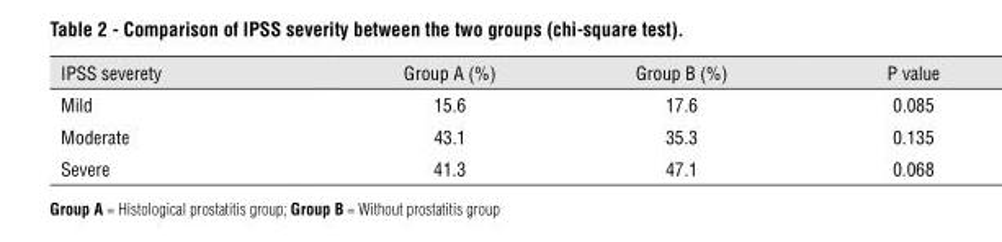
<table><thead><tr><td>IPSS severety</td><td>Group A (%)</td><td>Group B (%)</td><td>P value</td></tr></thead><tbody><tr><td>Mild</td><td>15.6</td><td>17.6</td><td>0.085</td></tr><tr><td>Moderate</td><td>43.1</td><td>35.3</td><td>0.135</td></tr><tr><td>Severe</td><td>41.3</td><td>47.1</td><td>0.068</td></tr></tbody></table>